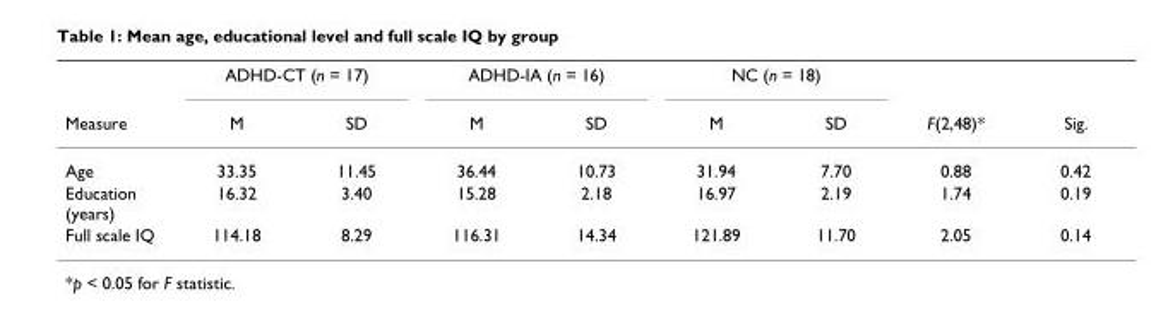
<table><thead><tr><td rowspan="2">Measure</td><td colspan="2">ADHD-CT (n = 17)</td><td colspan="2">ADHD-IA (n = 16)</td><td colspan="2">NC (n = 18)</td><td rowspan="2">F(2,48)*</td><td rowspan="2">Sig.</td></tr><tr><td>M</td><td>SD</td><td>M</td><td>SD</td><td>M</td><td>SD</td></tr></thead><tbody><tr><td>Age</td><td>33.35</td><td>11.45</td><td>36.44</td><td>10.73</td><td>31.94</td><td>7.70</td><td>0.88</td><td>0.42</td></tr><tr><td>Education (years)</td><td>16.32</td><td>3.40</td><td>15.28</td><td>2.18</td><td>16.97</td><td>2.19</td><td>1.74</td><td>0.19</td></tr><tr><td>Full scale IQ</td><td>114.18</td><td>8.29</td><td>116.31</td><td>14.34</td><td>121.89</td><td>11.70</td><td>2.05</td><td>0.14</td></tr></tbody></table>